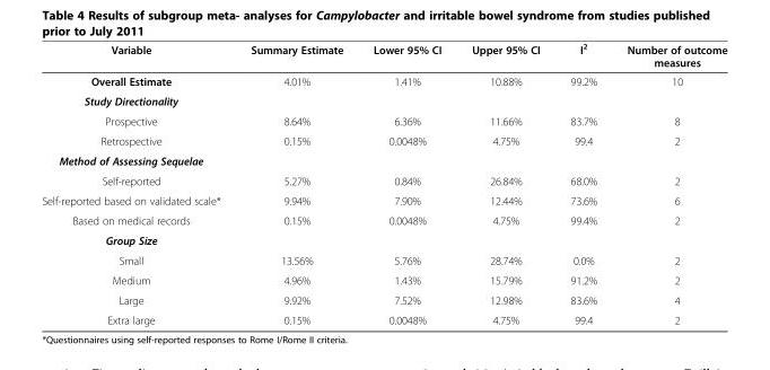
<table><thead><tr><td>Variable</td><td>Summary Estimate</td><td>Lower 95% CI</td><td>Upper 95% CI</td><td>I<sup>2</sup></td><td>Number of outcome measures</td></tr></thead><tbody><tr><td>Overall Estimate</td><td>4.01%</td><td>1.41%</td><td>10.88%</td><td>99.2%</td><td>10</td></tr><tr><td colspan="6">Study Directionality</td></tr><tr><td>Prospective</td><td>8.64%</td><td>6.36%</td><td>11.66%</td><td>83.7%</td><td>8</td></tr><tr><td>Retrospective</td><td>0.15%</td><td>0.0048%</td><td>4.75%</td><td>99.4</td><td>2</td></tr><tr><td colspan="6">Method of Assessing Sequelae</td></tr><tr><td>Self-reported</td><td>5.27%</td><td>0.84%</td><td>26.84%</td><td>68.0%</td><td>2</td></tr><tr><td>Self-reported based on validated scale*</td><td>9.94%</td><td>7.90%</td><td>12.44%</td><td>73.6%</td><td>6</td></tr><tr><td>Based on medical records</td><td>0.15%</td><td>0.0048%</td><td>4.75%</td><td>99.4%</td><td>2</td></tr><tr><td colspan="6">Group Size</td></tr><tr><td>Small</td><td>13.56%</td><td>5.76%</td><td>28.74%</td><td>0.0%</td><td>2</td></tr><tr><td>Medium</td><td>4.96%</td><td>1.43%</td><td>15.79%</td><td>91.2%</td><td>2</td></tr><tr><td>Large</td><td>9.92%</td><td>7.52%</td><td>12.98%</td><td>83.6%</td><td>4</td></tr><tr><td>Extra large</td><td>0.15%</td><td>0.0048%</td><td>4.75%</td><td>99.4</td><td>2</td></tr></tbody></table>